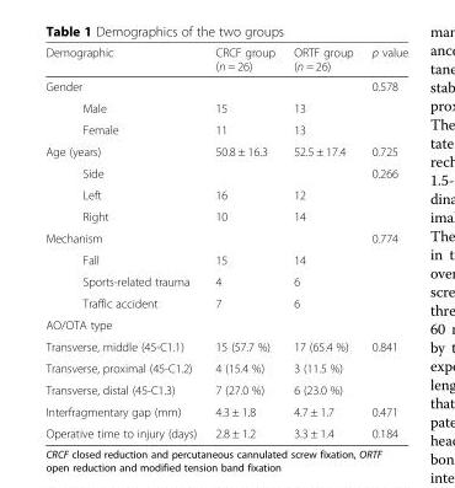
<table><thead><tr><td>Demographic</td><td>CRCF group (n = 26)</td><td>ORTF group (n = 26)</td><td>p value</td></tr></thead><tbody><tr><td>Gender</td><td></td><td></td><td>0.578</td></tr><tr><td>Male</td><td>15</td><td>13</td><td></td></tr><tr><td>Female</td><td>11</td><td>13</td><td></td></tr><tr><td>Age (years)</td><td>50.8 ± 16.3</td><td>52.5 ± 17.4</td><td>0.725</td></tr><tr><td>Side</td><td></td><td></td><td>0.266</td></tr><tr><td>Left</td><td>16</td><td>12</td><td></td></tr><tr><td>Right</td><td>10</td><td>14</td><td></td></tr><tr><td>Mechanism</td><td></td><td></td><td>0.774</td></tr><tr><td>Fall</td><td>15</td><td>14</td><td></td></tr><tr><td>Sports-related trauma</td><td>4</td><td>6</td><td></td></tr><tr><td>Traffic accident</td><td>7</td><td>6</td><td></td></tr><tr><td colspan="4">AO/OTA type</td></tr><tr><td>Transverse, middle (45-C1.1)</td><td>15 (57.7 %)</td><td>17 (65.4 %)</td><td>0.841</td></tr><tr><td>Transverse, proximal (45-C1.2)</td><td>4 (15.4 %)</td><td>3 (11.5 %)</td><td></td></tr><tr><td>Transverse, distal (45-C1.3)</td><td>7 (27.0 %)</td><td>6 (23.0 %)</td><td></td></tr><tr><td>Interfragmentary gap (mm)</td><td>4.3 ± 1.8</td><td>4.7 ± 1.7</td><td>0.471</td></tr><tr><td>Operative time to injury (days)</td><td>2.8 ± 1.2</td><td>3.3 ± 1.4</td><td>0.184</td></tr></tbody></table>